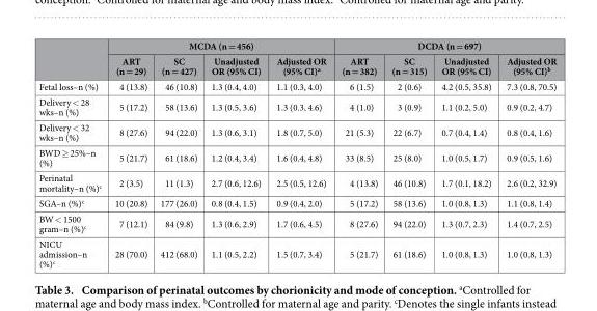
<table><thead><tr><td rowspan="2"></td><td colspan="4">MCDA (n = 456)</td><td colspan="4">DCDA (n = 697)</td></tr><tr><td>ART (n = 29)</td><td>SC (n = 427)</td><td>Unadjusted OR (95% CI)</td><td>Adjusted OR (95% CI)<sup>a</sup></td><td>ART (n = 382)</td><td>SC (n = 315)</td><td>Unadjusted OR (95% CI)</td><td>Adjusted OR (95% CI)<sup>b</sup></td></tr></thead><tbody><tr><td>Fetal loss–n (%)</td><td>4 (13.8)</td><td>46 (10.8)</td><td>1.3 (0.4, 4.0)</td><td>1.1 (0.3, 4.0)</td><td>6 (1.5)</td><td>2 (0.6)</td><td>4.2 (0.5, 35.8)</td><td>7.3 (0.8, 70.5)</td></tr><tr><td>Delivery &lt; 28 wks–n (%)</td><td>5 (17.2)</td><td>58 (13.6)</td><td>1.3 (0.5, 3.6)</td><td>1.3 (0.3, 4.6)</td><td>4 (1.0)</td><td>3 (0.9)</td><td>1.1 (0.2, 5.0)</td><td>0.9 (0.2, 4.7)</td></tr><tr><td>Delivery &lt; 32 wks–n (%)</td><td>8 (27.6)</td><td>94 (22.0)</td><td>1.3 (0.6, 3.1)</td><td>1.8 (0.7, 5.0)</td><td>21 (5.3)</td><td>22 (6.7)</td><td>0.7 (0.4, 1.4)</td><td>0.8 (0.4, 1.6)</td></tr><tr><td>BWD ≥ 25%–n (%)</td><td>5 (21.7)</td><td>61 (18.6)</td><td>1.2 (0.4, 3.4)</td><td>1.6 (0.4, 4.8)</td><td>33 (8.5)</td><td>25 (8.0)</td><td>1.0 (0.5, 1.7)</td><td>0.9 (0.5, 1.6)</td></tr><tr><td>Perinatal mortality–n (%)<sup>c</sup></td><td>2 (3.5)</td><td>11 (1.3)</td><td>2.7 (0.6, 12.6)</td><td>2.5 (0.5, 12.6)</td><td>4 (13.8)</td><td>46 (10.8)</td><td>1.7 (0.1, 18.2)</td><td>2.6 (0.2, 32.9)</td></tr><tr><td>SGA–n (%)<sup>c</sup></td><td>10 (20.8)</td><td>177 (26.0)</td><td>0.8 (0.4, 1.5)</td><td>0.9 (0.4, 2.0)</td><td>5 (17.2)</td><td>58 (13.6)</td><td>1.0 (0.8, 1.3)</td><td>1.1 (0.8, 1.4)</td></tr><tr><td>BW &lt; 1500 gram–n (%)<sup>c</sup></td><td>7 (12.1)</td><td>84 (9.8)</td><td>1.3 (0.6, 2.9)</td><td>1.7 (0.6, 4.5)</td><td>8 (27.6)</td><td>94 (22.0)</td><td>1.3 (0.7, 2.3)</td><td>1.4 (0.7, 2.5)</td></tr><tr><td>NICU admission–n (%)<sup>c</sup></td><td>28 (70.0)</td><td>412 (68.0)</td><td>1.1 (0.5, 2.2)</td><td>1.5 (0.7, 3.4)</td><td>5 (21.7)</td><td>61 (18.6)</td><td>1.0 (0.8, 1.3)</td><td>1.0 (0.8, 1.3)</td></tr></tbody></table>